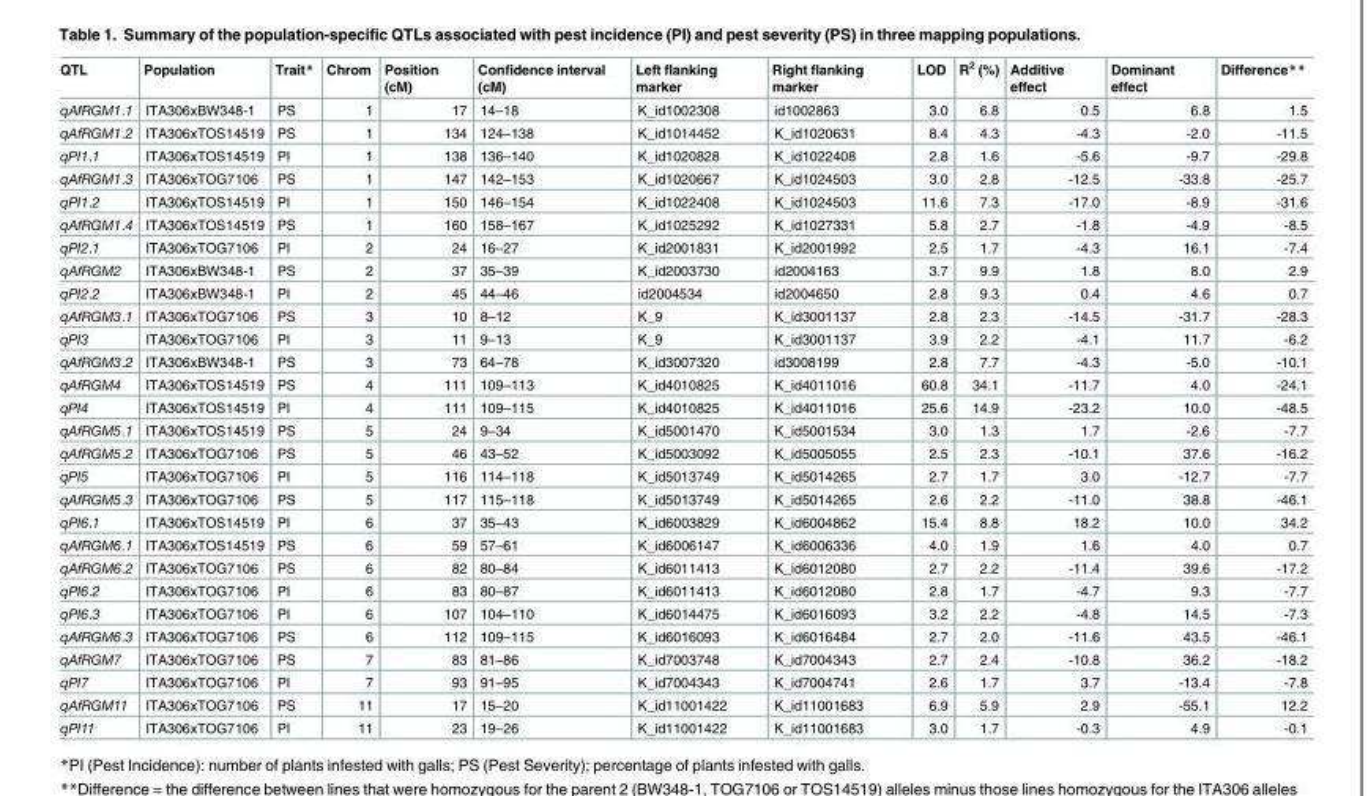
<table><thead><tr><td>QTL</td><td>Population</td><td>Trait*</td><td>Chrom</td><td>Position (cM)</td><td>Confidence interval (cM)</td><td>Left flanking marker</td><td>Right flanking marker</td><td>LOD</td><td>R<sup>2</sup> (%)</td><td>Additive effect</td><td>Dominant effect</td><td>Difference**</td></tr></thead><tbody><tr><td>qAfRGM1.1</td><td>ITA306xBW348-1</td><td>PS</td><td>1</td><td>17</td><td>14–18</td><td>K_id1002308</td><td>id1002863</td><td>3.0</td><td>6.8</td><td>0.5</td><td>6.8</td><td>1.5</td></tr><tr><td>qAfRGM1.2</td><td>ITA306xTOS14519</td><td>PS</td><td>1</td><td>134</td><td>124–138</td><td>K_id1014452</td><td>K_id1020631</td><td>8.4</td><td>4.3</td><td>-4.3</td><td>-2.0</td><td>-11.5</td></tr><tr><td>qPI1.1</td><td>ITA306xTOS14519</td><td>PI</td><td>1</td><td>138</td><td>136–140</td><td>K_id1020828</td><td>K_id1022408</td><td>2.8</td><td>1.6</td><td>-5.6</td><td>-9.7</td><td>-29.8</td></tr><tr><td>qAfRGM1.3</td><td>ITA306xTOG7106</td><td>PS</td><td>1</td><td>147</td><td>142–153</td><td>K_id1020667</td><td>K_id1024503</td><td>3.0</td><td>2.8</td><td>-12.5</td><td>-33.8</td><td>-25.7</td></tr><tr><td>qPI1.2</td><td>ITA306xTOS14519</td><td>PI</td><td>1</td><td>150</td><td>146–154</td><td>K_id1022408</td><td>K_id1024503</td><td>11.6</td><td>7.3</td><td>-17.0</td><td>-8.9</td><td>-31.6</td></tr><tr><td>qAfRGM1.4</td><td>ITA306xTOS14519</td><td>PS</td><td>1</td><td>160</td><td>158–167</td><td>K_id1025292</td><td>K_id1027331</td><td>5.8</td><td>2.7</td><td>-1.8</td><td>-4.9</td><td>-8.5</td></tr><tr><td>qPI2.1</td><td>ITA306xTOG7106</td><td>PI</td><td>2</td><td>24</td><td>16–27</td><td>K_id2001831</td><td>K_id2001992</td><td>2.5</td><td>1.7</td><td>-4.3</td><td>16.1</td><td>-7.4</td></tr><tr><td>qAfRGM2</td><td>ITA306xBW348-1</td><td>PS</td><td>2</td><td>37</td><td>35–39</td><td>K_id2003730</td><td>id2004163</td><td>3.7</td><td>9.9</td><td>1.8</td><td>8.0</td><td>2.9</td></tr><tr><td>qPI2.2</td><td>ITA306xBW348-1</td><td>PI</td><td>2</td><td>45</td><td>44–46</td><td>id2004534</td><td>id2004650</td><td>2.8</td><td>9.3</td><td>0.4</td><td>4.6</td><td>0.7</td></tr><tr><td>qAfRGM3.1</td><td>ITA306xTOG7106</td><td>PS</td><td>3</td><td>10</td><td>8–12</td><td>K_9</td><td>K_id3001137</td><td>2.8</td><td>2.3</td><td>-14.5</td><td>-31.7</td><td>-28.3</td></tr><tr><td>qPI3</td><td>ITA306xTOG7106</td><td>PI</td><td>3</td><td>11</td><td>9–13</td><td>K_9</td><td>K_id3001137</td><td>3.9</td><td>2.2</td><td>-4.1</td><td>11.7</td><td>-6.2</td></tr><tr><td>qAfRGM3.2</td><td>ITA306xBW348-1</td><td>PS</td><td>3</td><td>73</td><td>64–78</td><td>K_id3007320</td><td>id3008199</td><td>2.8</td><td>7.7</td><td>-4.3</td><td>-5.0</td><td>-10.1</td></tr><tr><td>qAfRGM4</td><td>ITA306xTOS14519</td><td>PS</td><td>4</td><td>111</td><td>109–113</td><td>K_id4010825</td><td>K_id4011016</td><td>60.8</td><td>34.1</td><td>-11.7</td><td>4.0</td><td>-24.1</td></tr><tr><td>qPI4</td><td>ITA306xTOS14519</td><td>PI</td><td>4</td><td>111</td><td>109–115</td><td>K_id4010825</td><td>K_id4011016</td><td>25.6</td><td>14.9</td><td>-23.2</td><td>10.0</td><td>-48.5</td></tr><tr><td>qAfRGM5.1</td><td>ITA306xTOS14519</td><td>PS</td><td>5</td><td>24</td><td>9–34</td><td>K_id5001470</td><td>K_id5001534</td><td>3.0</td><td>1.3</td><td>1.7</td><td>-2.6</td><td>-7.7</td></tr><tr><td>qAfRGM5.2</td><td>ITA306xTOG7106</td><td>PS</td><td>5</td><td>46</td><td>43–52</td><td>K_id5003092</td><td>K_id5005055</td><td>2.5</td><td>2.3</td><td>-10.1</td><td>37.6</td><td>-16.2</td></tr><tr><td>qPI5</td><td>ITA306xTOG7106</td><td>PI</td><td>5</td><td>116</td><td>114–118</td><td>K_id5013749</td><td>K_id5014265</td><td>2.7</td><td>1.7</td><td>3.0</td><td>-12.7</td><td>-7.7</td></tr><tr><td>qAfRGM5.3</td><td>ITA306xTOG7106</td><td>PS</td><td>5</td><td>117</td><td>115–118</td><td>K_id5013749</td><td>K_id5014265</td><td>2.6</td><td>2.2</td><td>-11.0</td><td>38.8</td><td>-46.1</td></tr><tr><td>qPI6.1</td><td>ITA306xTOS14519</td><td>PI</td><td>6</td><td>37</td><td>35–43</td><td>K_id6003829</td><td>K_id6004862</td><td>15.4</td><td>8.8</td><td>18.2</td><td>10.0</td><td>34.2</td></tr><tr><td>qAfRGM6.1</td><td>ITA306xTOS14519</td><td>PS</td><td>6</td><td>59</td><td>57–61</td><td>K_id6006147</td><td>K_id6006336</td><td>4.0</td><td>1.9</td><td>1.6</td><td>4.0</td><td>0.7</td></tr><tr><td>qAfRGM6.2</td><td>ITA306xTOG7106</td><td>PS</td><td>6</td><td>82</td><td>80–84</td><td>K_id6011413</td><td>K_id6012080</td><td>2.7</td><td>2.2</td><td>-11.4</td><td>39.6</td><td>-17.2</td></tr><tr><td>qPI6.2</td><td>ITA306xTOG7106</td><td>PI</td><td>6</td><td>83</td><td>80–87</td><td>K_id6011413</td><td>K_id6012080</td><td>2.8</td><td>1.7</td><td>-4.7</td><td>9.3</td><td>-7.7</td></tr><tr><td>qPI6.3</td><td>ITA306xTOG7106</td><td>PI</td><td>6</td><td>107</td><td>104–110</td><td>K_id6014475</td><td>K_id6016093</td><td>3.2</td><td>2.2</td><td>-4.8</td><td>14.5</td><td>-7.3</td></tr><tr><td>qAfRGM6.3</td><td>ITA306xTOG7106</td><td>PS</td><td>6</td><td>112</td><td>109–115</td><td>K_id6016093</td><td>K_id6016484</td><td>2.7</td><td>2.0</td><td>-11.6</td><td>43.5</td><td>-46.1</td></tr><tr><td>qAfRGM7</td><td>ITA306xTOG7106</td><td>PS</td><td>7</td><td>83</td><td>81–86</td><td>K_id7003748</td><td>K_id7004343</td><td>2.7</td><td>2.4</td><td>-10.8</td><td>36.2</td><td>-18.2</td></tr><tr><td>qPI7</td><td>ITA306xTOG7106</td><td>PI</td><td>7</td><td>93</td><td>91–95</td><td>K_id7004343</td><td>K_id7004741</td><td>2.6</td><td>1.7</td><td>3.7</td><td>-13.4</td><td>-7.8</td></tr><tr><td>qAfRGM11</td><td>ITA306xTOG7106</td><td>PS</td><td>11</td><td>17</td><td>15–20</td><td>K_id11001422</td><td>K_id11001683</td><td>6.9</td><td>5.9</td><td>2.9</td><td>-55.1</td><td>12.2</td></tr><tr><td>qPI11</td><td>ITA306xTOG7106</td><td>PI</td><td>11</td><td>23</td><td>19–26</td><td>K_id11001422</td><td>K_id11001683</td><td>3.0</td><td>1.7</td><td>-0.3</td><td>4.9</td><td>-0.1</td></tr></tbody></table>